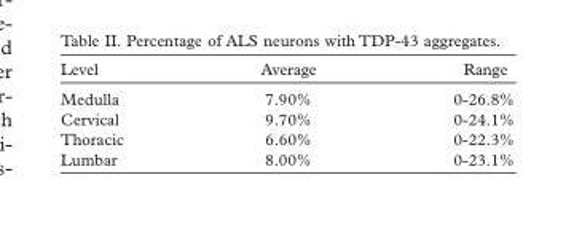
<table><thead><tr><td>Level</td><td>Average</td><td>Range</td></tr></thead><tbody><tr><td>Medulla</td><td>7.90%</td><td>0-26.8%</td></tr><tr><td>Cervical</td><td>9.70%</td><td>0-24.1%</td></tr><tr><td>Thoracic</td><td>6.60%</td><td>0-22.3%</td></tr><tr><td>Lumbar</td><td>8.00%</td><td>0-23.1%</td></tr></tbody></table>